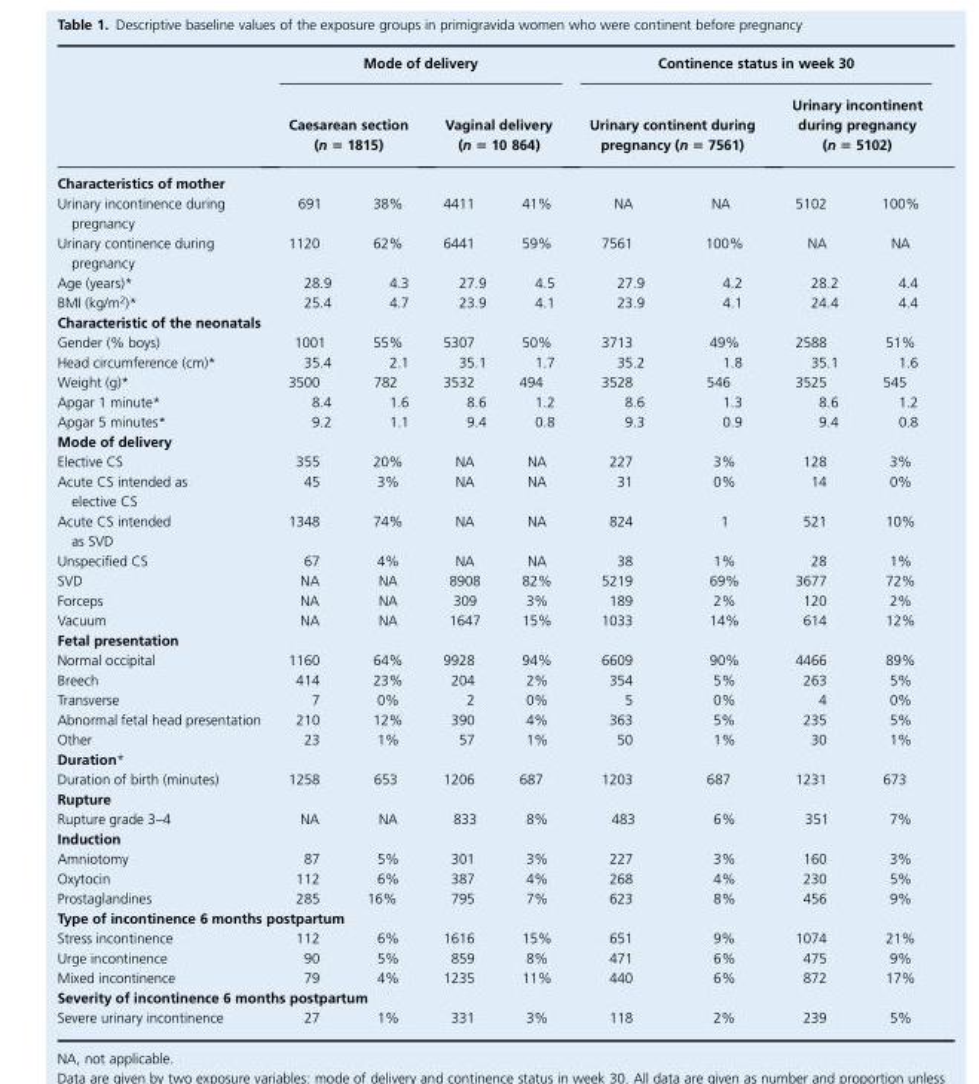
<table><thead><tr><td rowspan="2"></td><td colspan="4">Mode of delivery</td><td colspan="4">Continence status in week 30</td></tr><tr><td colspan="2">Caesarean section (n = 1815)</td><td colspan="2">Vaginal delivery (n = 10 864)</td><td colspan="2">Urinary continent during pregnancy (n = 7561)</td><td colspan="2">Urinary incontinent during pregnancy (n = 5102)</td></tr><tr><td colspan="9">Characteristics of mother</td></tr><tr><td>Urinary incontinence during pregnancy</td><td>691</td><td>38%</td><td>4411</td><td>41%</td><td>NA</td><td>NA</td><td>5102</td><td>100%</td></tr></thead><tbody><tr><td>Urinary continence during pregnancy</td><td>1120</td><td>62%</td><td>6441</td><td>59%</td><td>7561</td><td>100%</td><td>NA</td><td>NA</td></tr><tr><td>Age (years)*</td><td>28.9</td><td>4.3</td><td>27.9</td><td>4.5</td><td>27.9</td><td>4.2</td><td>28.2</td><td>4.4</td></tr><tr><td>BMI (kg/m<sup>2</sup>)*</td><td>25.4</td><td>4.7</td><td>23.9</td><td>4.1</td><td>23.9</td><td>4.1</td><td>24.4</td><td>4.4</td></tr><tr><td colspan="9">Characteristic of the neonatals</td></tr><tr><td>Gender (% boys)</td><td>1001</td><td>55%</td><td>5307</td><td>50%</td><td>3713</td><td>49%</td><td>2588</td><td>51%</td></tr><tr><td>Head circumference (cm)*</td><td>35.4</td><td>2.1</td><td>35.1</td><td>1.7</td><td>35.2</td><td>1.8</td><td>35.1</td><td>1.6</td></tr><tr><td>Weight (g)*</td><td>3500</td><td>782</td><td>3532</td><td>494</td><td>3528</td><td>546</td><td>3525</td><td>545</td></tr><tr><td>Apgar 1 minute*</td><td>8.4</td><td>1.6</td><td>8.6</td><td>1.2</td><td>8.6</td><td>1.3</td><td>8.6</td><td>1.2</td></tr><tr><td>Apgar 5 minutes*</td><td>9.2</td><td>1.1</td><td>9.4</td><td>0.8</td><td>9.3</td><td>0.9</td><td>9.4</td><td>0.8</td></tr><tr><td colspan="9">Mode of delivery</td></tr><tr><td>Elective CS</td><td>355</td><td>20%</td><td>NA</td><td>NA</td><td>227</td><td>3%</td><td>128</td><td>3%</td></tr><tr><td>Acute CS intended as elective CS</td><td>45</td><td>3%</td><td>NA</td><td>NA</td><td>31</td><td>0%</td><td>14</td><td>0%</td></tr><tr><td>Acute CS intended as SVD</td><td>1348</td><td>74%</td><td>NA</td><td>NA</td><td>824</td><td>1</td><td>521</td><td>10%</td></tr><tr><td>Unspecified CS</td><td>67</td><td>4%</td><td>NA</td><td>NA</td><td>38</td><td>1%</td><td>28</td><td>1%</td></tr><tr><td>SVD</td><td>NA</td><td>NA</td><td>8908</td><td>82%</td><td>5219</td><td>69%</td><td>3677</td><td>72%</td></tr><tr><td>Forceps</td><td>NA</td><td>NA</td><td>309</td><td>3%</td><td>189</td><td>2%</td><td>120</td><td>2%</td></tr><tr><td>Vacuum</td><td>NA</td><td>NA</td><td>1647</td><td>15%</td><td>1033</td><td>14%</td><td>614</td><td>12%</td></tr><tr><td colspan="9">Fetal presentation</td></tr><tr><td>Normal occipital</td><td>1160</td><td>64%</td><td>9928</td><td>94%</td><td>6609</td><td>90%</td><td>4466</td><td>89%</td></tr><tr><td>Breech</td><td>414</td><td>23%</td><td>204</td><td>2%</td><td>354</td><td>5%</td><td>263</td><td>5%</td></tr><tr><td>Transverse</td><td>7</td><td>0%</td><td>2</td><td>0%</td><td>5</td><td>0%</td><td>4</td><td>0%</td></tr><tr><td>Abnormal fetal head presentation</td><td>210</td><td>12%</td><td>390</td><td>4%</td><td>363</td><td>5%</td><td>235</td><td>5%</td></tr><tr><td>Other</td><td>23</td><td>1%</td><td>57</td><td>1%</td><td>50</td><td>1%</td><td>30</td><td>1%</td></tr><tr><td colspan="9">Duration*</td></tr><tr><td>Duration of birth (minutes)</td><td>1258</td><td>653</td><td>1206</td><td>687</td><td>1203</td><td>687</td><td>1231</td><td>673</td></tr><tr><td colspan="9">Rupture</td></tr><tr><td>Rupture grade 3–4</td><td>NA</td><td>NA</td><td>833</td><td>8%</td><td>483</td><td>6%</td><td>351</td><td>7%</td></tr><tr><td colspan="9">Induction</td></tr><tr><td>Amniotomy</td><td>87</td><td>5%</td><td>301</td><td>3%</td><td>227</td><td>3%</td><td>160</td><td>3%</td></tr><tr><td>Oxytocin</td><td>112</td><td>6%</td><td>387</td><td>4%</td><td>268</td><td>4%</td><td>230</td><td>5%</td></tr><tr><td>Prostaglandines</td><td>285</td><td>16%</td><td>795</td><td>7%</td><td>623</td><td>8%</td><td>456</td><td>9%</td></tr><tr><td colspan="9">Type of incontinence 6 months postpartum</td></tr><tr><td>Stress incontinence</td><td>112</td><td>6%</td><td>1616</td><td>15%</td><td>651</td><td>9%</td><td>1074</td><td>21%</td></tr><tr><td>Urge incontinence</td><td>90</td><td>5%</td><td>859</td><td>8%</td><td>471</td><td>6%</td><td>475</td><td>9%</td></tr><tr><td>Mixed incontinence</td><td>79</td><td>4%</td><td>1235</td><td>11%</td><td>440</td><td>6%</td><td>872</td><td>17%</td></tr><tr><td colspan="9">Severity of incontinence 6 months postpartum</td></tr><tr><td>Severe urinary incontinence</td><td>27</td><td>1%</td><td>331</td><td>3%</td><td>118</td><td>2%</td><td>239</td><td>5%</td></tr></tbody></table>